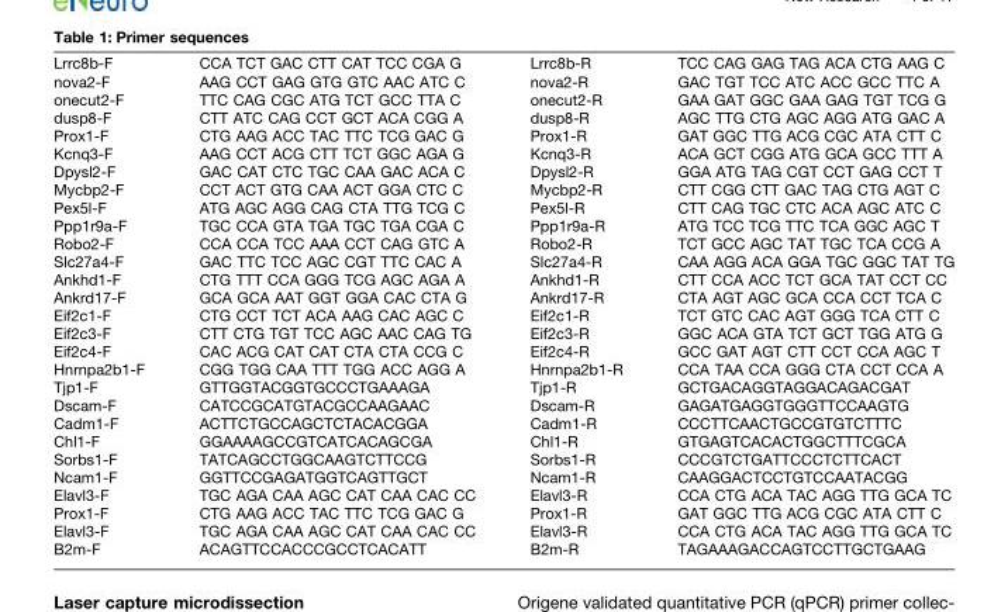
<table><tbody><tr><td>Lrrc8b-F</td><td>CCA TCT GAC CTT CAT TCC CGA G</td><td>Lrrc8b-R</td><td>TCC CAG GAG TAG ACA CTG AAG C</td></tr><tr><td>nova2-F</td><td>AAG CCT GAG GTG GTC AAC ATC C</td><td>nova2-R</td><td>GAC TGT TCC ATC ACC GCC TTC A</td></tr><tr><td>onecut2-F</td><td>TTC CAG CGC ATG TCT GCC TTA C</td><td>onecut2-R</td><td>GAA GAT GGC GAA GAG TGT TCG G</td></tr><tr><td>dusp8-F</td><td>CTT ATC CAG CCT GCT ACA CGG A</td><td>dusp8-R</td><td>AGC TTG CTG AGC AGG ATG GAC A</td></tr><tr><td>Prox1-F</td><td>CTG AAG ACC TAC TTC TCG GAC G</td><td>Prox1-R</td><td>GAT GGC TTG ACG CGC ATA CTT C</td></tr><tr><td>Kcnq3-F</td><td>AAG CCT ACG CTT TCT GGC AGA G</td><td>Kcnq3-R</td><td>ACA GCT CGG ATG GCA GCC TTT A</td></tr><tr><td>Dpysl2-F</td><td>GAC CAT CTC TGC CAA GAC ACA C</td><td>Dpysl2-R</td><td>GGA ATG TAG CGT CCT GAG CCT T</td></tr><tr><td>Mycbp2-F</td><td>CCT ACT GTG CAA ACT GGA CTC C</td><td>Mycbp2-R</td><td>CTT CGG CTT GAC TAG CTG AGT C</td></tr><tr><td>Pex5l-F</td><td>ATG AGC AGG CAG CTA TTG TCG C</td><td>Pex5l-R</td><td>CTT CAG TGC CTC ACA AGC ATC C</td></tr><tr><td>Ppp1r9a-F</td><td>TGC CCA GTA TGA TGC TGA CGA C</td><td>Ppp1r9a-R</td><td>ATG TCC TCG TTC TCA GGC AGC T</td></tr><tr><td>Robo2-F</td><td>CCA CCA TCC AAA CCT CAG GTC A</td><td>Robo2-R</td><td>TCT GCC AGC TAT TGC TCA CCG A</td></tr><tr><td>Slc27a4-F</td><td>GAC TTC TCC AGC CGT TTC CAC A</td><td>Slc27a4-R</td><td>CAA AGG ACA GGA TGC GGC TAT TG</td></tr><tr><td>Ankhd1-F</td><td>CTG TTT CCA GGG TCG AGC AGA A</td><td>Ankhd1-R</td><td>CTT CCA ACC TCT GCA TAT CCT CC</td></tr><tr><td>Ankrd17-F</td><td>GCA GCA AAT GGT GGA CAC CTA G</td><td>Ankrd17-R</td><td>CTA AGT AGC GCA CCA CCT TCA C</td></tr><tr><td>Eif2c1-F</td><td>CTG CCT TCT ACA AAG CAC AGC C</td><td>Eif2c1-R</td><td>TCT GTC CAC AGT GGG TCA CTT C</td></tr><tr><td>Eif2c3-F</td><td>CTT CTG TGT TCC AGC AAC CAG TG</td><td>Eif2c3-R</td><td>GGC ACA GTA TCT GCT TGG ATG G</td></tr><tr><td>Eif2c4-F</td><td>CAC ACG CAT CAT CTA CTA CCG C</td><td>Eif2c4-R</td><td>GCC GAT AGT CTT CCT CCA AGC T</td></tr><tr><td>Hnrnpa2b1-F</td><td>CGG TGG CAA TTT TGG ACC AGG A</td><td>Hnrnpa2b1-R</td><td>CCA TAA CCA GGG CTA CCT CCA A</td></tr><tr><td>Tjp1-F</td><td>GTTGGTACGGTGCCCTGAAAGA</td><td>Tjp1-R</td><td>GCTGACAGGTAGGACAGACGAT</td></tr><tr><td>Dscam-F</td><td>CATCCGCATGTACGCCAAGAAC</td><td>Dscam-R</td><td>GAGATGAGGTGGGTTCCAAGTG</td></tr><tr><td>Cadm1-F</td><td>ACTTCTGCCAGCTCTACACGGA</td><td>Cadm1-R</td><td>CCCTTCAACTGCCGTGTCTTTC</td></tr><tr><td>Chl1-F</td><td>GGAAAAGCCGTCATCACAGCGA</td><td>Chl1-R</td><td>GTGAGTCACACTGGCTTTCGCA</td></tr><tr><td>Sorbs1-F</td><td>TATCAGCCTGGCAAGTCTTCCG</td><td>Sorbs1-R</td><td>CCCGTCTGATTCCCTCTTCACT</td></tr><tr><td>Ncam1-F</td><td>GGTTCCGAGATGGTCAGTTGCT</td><td>Ncam1-R</td><td>CAAGGACTCCTGTCCAATACGG</td></tr><tr><td>Elavl3-F</td><td>TGC AGA CAA AGC CAT CAA CAC CC</td><td>Elavl3-R</td><td>CCA CTG ACA TAC AGG TTG GCA TC</td></tr><tr><td>Prox1-F</td><td>CTG AAG ACC TAC TTC TCG GAC G</td><td>Prox1-R</td><td>GAT GGC TTG ACG CGC ATA CTT C</td></tr><tr><td>Elavl3-F</td><td>TGC AGA CAA AGC CAT CAA CAC CC</td><td>Elavl3-R</td><td>CCA CTG ACA TAC AGG TTG GCA TC</td></tr><tr><td>B2m-F</td><td>ACAGTTCCACCCGCCTCACATT</td><td>B2m-R</td><td>TAGAAAGACCAGTCCTTGCTGAAG</td></tr></tbody></table>